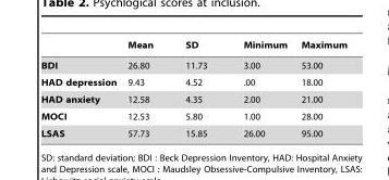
<table><thead><tr><td></td><td>Mean</td><td>SD</td><td>Minimum</td><td>Maximum</td></tr></thead><tbody><tr><td>BDI</td><td>26.80</td><td>11.73</td><td>3.00</td><td>53.00</td></tr><tr><td>HAD depression</td><td>9.43</td><td>4.52</td><td>.00</td><td>18.00</td></tr><tr><td>HAD anxiety</td><td>12.58</td><td>4.35</td><td>2.00</td><td>21.00</td></tr><tr><td>MOCI</td><td>12.53</td><td>5.80</td><td>1.00</td><td>28.00</td></tr><tr><td>LSAS</td><td>57.73</td><td>15.85</td><td>26.00</td><td>95.00</td></tr></tbody></table>